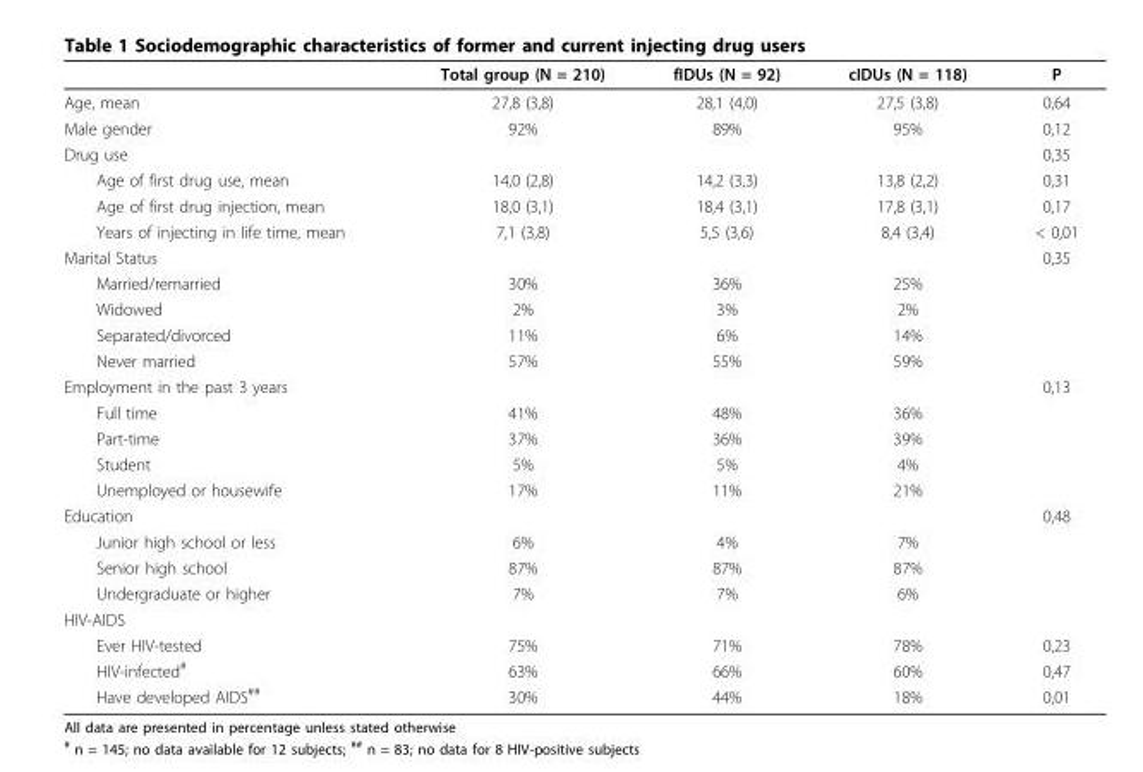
<table><thead><tr><td></td><td>Total group (N = 210)</td><td>fIDUs (N = 92)</td><td>cIDUs (N = 118)</td><td>P</td></tr></thead><tbody><tr><td>Age, mean</td><td>27,8 (3,8)</td><td>28,1 (4,0)</td><td>27,5 (3,8)</td><td>0,64</td></tr><tr><td>Male gender</td><td>92%</td><td>89%</td><td>95%</td><td>0,12</td></tr><tr><td>Drug use</td><td></td><td></td><td></td><td>0,35</td></tr><tr><td>Age of first drug use, mean</td><td>14,0 (2,8)</td><td>14,2 (3,3)</td><td>13,8 (2,2)</td><td>0,31</td></tr><tr><td>Age of first drug injection, mean</td><td>18,0 (3,1)</td><td>18,4 (3,1)</td><td>17,8 (3,1)</td><td>0,17</td></tr><tr><td>Years of injecting in life time, mean</td><td>7,1 (3,8)</td><td>5,5 (3,6)</td><td>8,4 (3,4)</td><td>&lt; 0,01</td></tr><tr><td>Marital Status</td><td></td><td></td><td></td><td>0,35</td></tr><tr><td>Married/remarried</td><td>30%</td><td>36%</td><td>25%</td><td></td></tr><tr><td>Widowed</td><td>2%</td><td>3%</td><td>2%</td><td></td></tr><tr><td>Separated/divorced</td><td>11%</td><td>6%</td><td>14%</td><td></td></tr><tr><td>Never married</td><td>57%</td><td>55%</td><td>59%</td><td></td></tr><tr><td>Employment in the past 3 years</td><td></td><td></td><td></td><td>0,13</td></tr><tr><td>Full time</td><td>41%</td><td>48%</td><td>36%</td><td></td></tr><tr><td>Part-time</td><td>37%</td><td>36%</td><td>39%</td><td></td></tr><tr><td>Student</td><td>5%</td><td>5%</td><td>4%</td><td></td></tr><tr><td>Unemployed or housewife</td><td>17%</td><td>11%</td><td>21%</td><td></td></tr><tr><td>Education</td><td></td><td></td><td></td><td>0,48</td></tr><tr><td>Junior high school or less</td><td>6%</td><td>4%</td><td>7%</td><td></td></tr><tr><td>Senior high school</td><td>87%</td><td>87%</td><td>87%</td><td></td></tr><tr><td>Undergraduate or higher</td><td>7%</td><td>7%</td><td>6%</td><td></td></tr><tr><td colspan="5">HIV-AIDS</td></tr><tr><td>Ever HIV-tested</td><td>75%</td><td>71%</td><td>78%</td><td>0,23</td></tr><tr><td>HIV-infected<sup>#</sup></td><td>63%</td><td>66%</td><td>60%</td><td>0,47</td></tr><tr><td>Have developed AIDS<sup>##</sup></td><td>30%</td><td>44%</td><td>18%</td><td>0,01</td></tr></tbody></table>